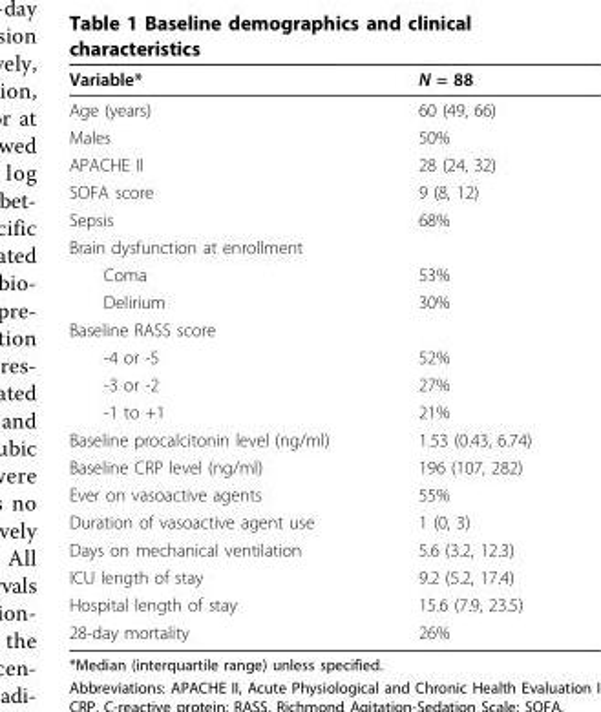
<table><thead><tr><td>Variable*</td><td>N = 88</td></tr></thead><tbody><tr><td>Age (years)</td><td>60 (49, 66)</td></tr><tr><td>Males</td><td>50%</td></tr><tr><td>APACHE II</td><td>28 (24, 32)</td></tr><tr><td>SOFA score</td><td>9 (8, 12)</td></tr><tr><td>Sepsis</td><td>68%</td></tr><tr><td colspan="2">Brain dysfunction at enrollment</td></tr><tr><td>Coma</td><td>53%</td></tr><tr><td>Delirium</td><td>30%</td></tr><tr><td colspan="2">Baseline RASS score</td></tr><tr><td>-4 or -5</td><td>52%</td></tr><tr><td>-3 or -2</td><td>27%</td></tr><tr><td>-1 to +1</td><td>21%</td></tr><tr><td>Baseline procalcitonin level (ng/ml)</td><td>1.53 (0.43, 6.74)</td></tr><tr><td>Baseline CRP level (ng/ml)</td><td>196 (107, 282)</td></tr><tr><td>Ever on vasoactive agents</td><td>55%</td></tr><tr><td>Duration of vasoactive agent use</td><td>1 (0, 3)</td></tr><tr><td>Days on mechanical ventilation</td><td>5.6 (3.2, 12.3)</td></tr><tr><td>ICU length of stay</td><td>9.2 (5.2, 17.4)</td></tr><tr><td>Hospital length of stay</td><td>15.6 (7.9, 23.5)</td></tr><tr><td>28-day mortality</td><td>26%</td></tr></tbody></table>